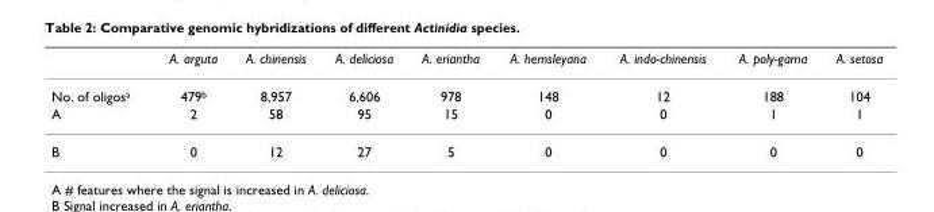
<table><thead><tr><td></td><td>A. arguta</td><td>A. chinensis</td><td>A. deliciosa</td><td>A. eriantha</td><td>A. hemsleyana</td><td>A. indo-chinensis</td><td>A. poly-gama</td><td>A. setosa</td></tr></thead><tbody><tr><td>No. of oligos<sup>a</sup></td><td>479<sup>b</sup></td><td>8,957</td><td>6,606</td><td>978</td><td>148</td><td>12</td><td>188</td><td>104</td></tr><tr><td>A</td><td>2</td><td>58</td><td>95</td><td>15</td><td>0</td><td>0</td><td>1</td><td>1</td></tr><tr><td>B</td><td>0</td><td>12</td><td>27</td><td>5</td><td>0</td><td>0</td><td>0</td><td>0</td></tr></tbody></table>